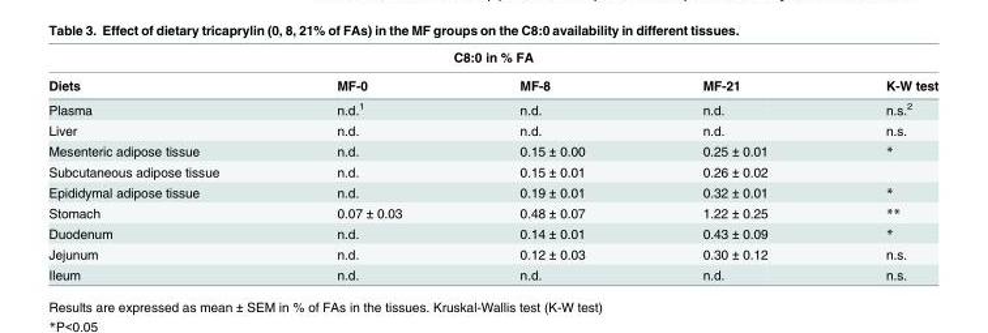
<table><thead><tr><td colspan="5">C8:0 in % FA</td></tr><tr><td>Diets</td><td>MF-0</td><td>MF-8</td><td>MF-21</td><td>K-W test</td></tr></thead><tbody><tr><td>Plasma</td><td>n.d.<sup>1</sup></td><td>n.d.</td><td>n.d.</td><td>n.s.<sup>2</sup></td></tr><tr><td>Liver</td><td>n.d.</td><td>n.d.</td><td>n.d.</td><td>n.s.</td></tr><tr><td>Mesenteric adipose tissue</td><td>n.d.</td><td>0.15 ± 0.00</td><td>0.25 ± 0.01</td><td>*</td></tr><tr><td>Subcutaneous adipose tissue</td><td>n.d.</td><td>0.15 ± 0.01</td><td>0.26 ± 0.02</td><td></td></tr><tr><td>Epididymal adipose tissue</td><td>n.d.</td><td>0.19 ± 0.01</td><td>0.32 ± 0.01</td><td>*</td></tr><tr><td>Stomach</td><td>0.07 ± 0.03</td><td>0.48 ± 0.07</td><td>1.22 ± 0.25</td><td>**</td></tr><tr><td>Duodenum</td><td>n.d.</td><td>0.14 ± 0.01</td><td>0.43 ± 0.09</td><td>*</td></tr><tr><td>Jejunum</td><td>n.d.</td><td>0.12 ± 0.03</td><td>0.30 ± 0.12</td><td>n.s.</td></tr><tr><td>Ileum</td><td>n.d.</td><td>n.d.</td><td>n.d.</td><td>n.s.</td></tr></tbody></table>